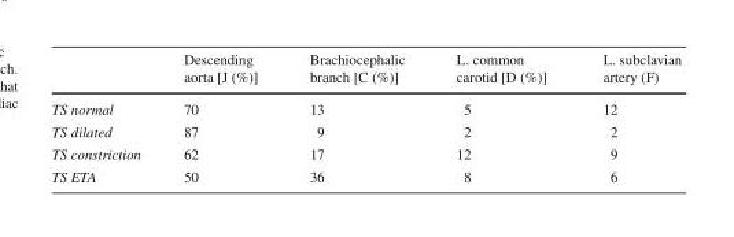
<table><thead><tr><td></td><td>Descending aorta [J (%)]</td><td>Brachiocephalic branch [C (%)]</td><td>L. common carotid [D (%)]</td><td>L. subclavian artery (F)</td></tr></thead><tbody><tr><td>TS normal</td><td>70</td><td>13</td><td>5</td><td>12</td></tr><tr><td>TS dilated</td><td>87</td><td>9</td><td>2</td><td>2</td></tr><tr><td>TS constriction</td><td>62</td><td>17</td><td>12</td><td>9</td></tr><tr><td>TS ETA</td><td>50</td><td>36</td><td>8</td><td>6</td></tr></tbody></table>